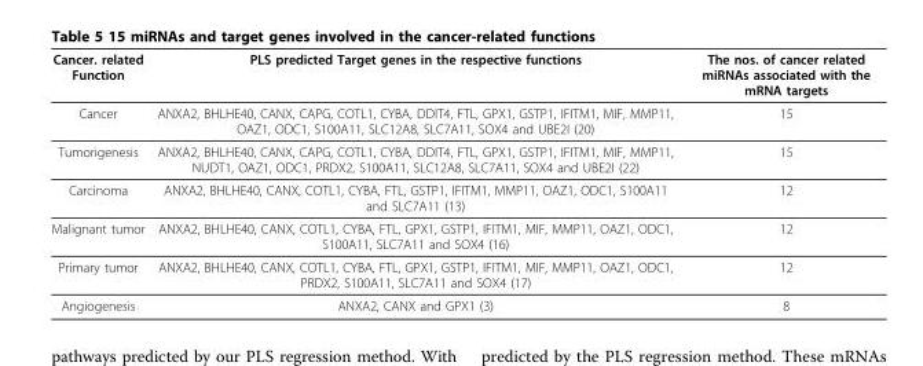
<table><thead><tr><td>Cancer. related Function</td><td>PLS predicted Target genes in the respective functions</td><td>The nos. of cancer related miRNAs associated with the mRNA targets</td></tr></thead><tbody><tr><td>Cancer</td><td>ANXA2, BHLHE40, CANX, CAPG, COTL1, CYBA, DDIT4, FTL, GPX1, GSTP1, IFITM1, MIF, MMP11, OAZ1, ODC1, S100A11, SLC12A8, SLC7A11, SOX4 and UBE2I (20)</td><td>15</td></tr><tr><td>Tumorigenesis</td><td>ANXA2, BHLHE40, CANX, CAPG, COTL1, CYBA, DDIT4, FTL, GPX1, GSTP1, IFITM1, MIF, MMP11, NUDT1, OAZ1, ODC1, PRDX2, S100A11, SLC12A8, SLC7A11, SOX4 and UBE2I (22)</td><td>15</td></tr><tr><td>Carcinoma</td><td>ANXA2, BHLHE40, CANX, COTL1, CYBA, FTL, GSTP1, IFITM1, MMP11, OAZ1, ODC1, S100A11 and SLC7A11 (13)</td><td>12</td></tr><tr><td>Malignant tumor</td><td>ANXA2, BHLHE40, CANX, COTL1, CYBA, FTL, GPX1, GSTP1, IFITM1, MIF, MMP11, OAZ1, ODC1, S100A11, SLC7A11 and SOX4 (16)</td><td>12</td></tr><tr><td>Primary tumor</td><td>ANXA2, BHLHE40, CANX, COTL1, CYBA, FTL, GPX1, GSTP1, IFITM1, MIF, MMP11, OAZ1, ODC1, PRDX2, S100A11, SLC7A11 and SOX4 (17)</td><td>12</td></tr><tr><td>Angiogenesis</td><td>ANXA2, CANX and GPX1 (3)</td><td>8</td></tr></tbody></table>